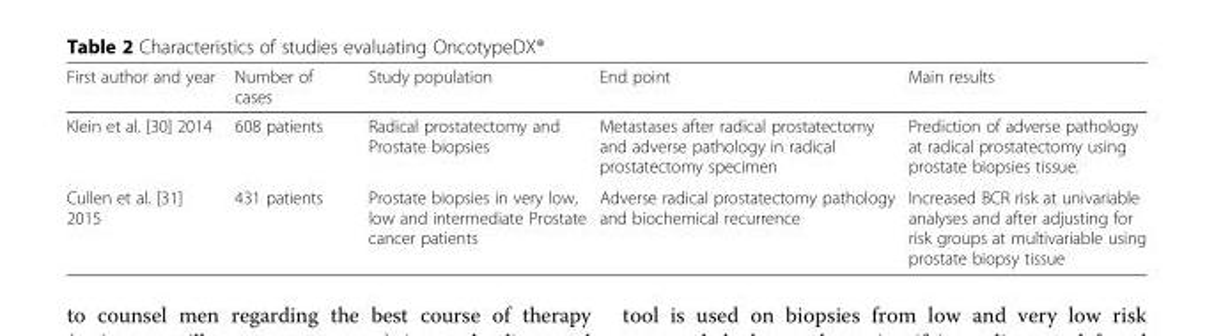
<table><thead><tr><td>First author and year</td><td>Number of cases</td><td>Study population</td><td>End point</td><td>Main results</td></tr></thead><tbody><tr><td>Klein et al. [30] 2014</td><td>608 patients</td><td>Radical prostatectomy and Prostate biopsies</td><td>Metastases after radical prostatectomy and adverse pathology in radical prostatectomy specimen</td><td>Prediction of adverse pathology at radical prostatectomy using prostate biopsies tissue.</td></tr><tr><td>Cullen et al. [31] 2015</td><td>431 patients</td><td>Prostate biopsies in very low, low and intermediate Prostate cancer patients</td><td>Adverse radical prostatectomy pathology and biochemical recurrence</td><td>Increased BCR risk at univariable analyses and after adjusting for risk groups at multivariable using prostate biopsy tissue</td></tr></tbody></table>